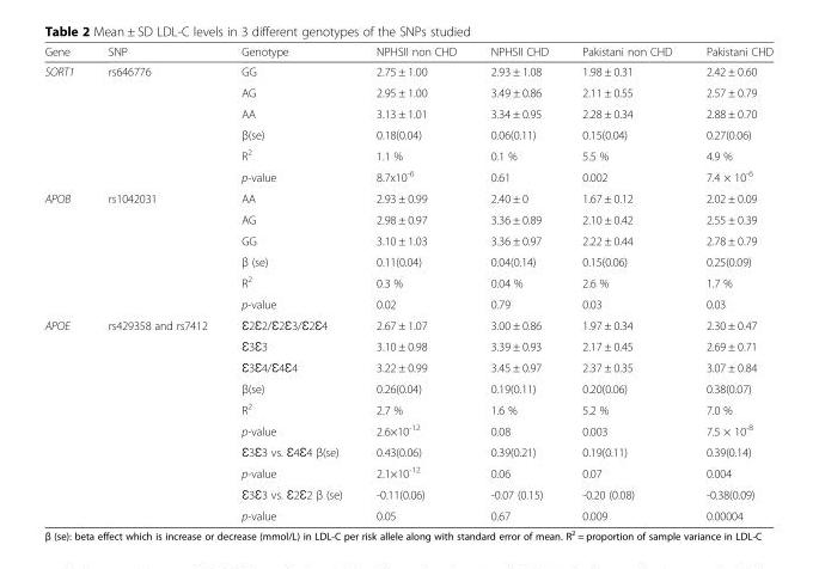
<table><thead><tr><td>Gene</td><td>SNP</td><td>Genotype</td><td>NPHSII non CHD</td><td>NPHSII CHD</td><td>Pakistani non CHD</td><td>Pakistani CHD</td></tr></thead><tbody><tr><td rowspan="6">SORT1</td><td rowspan="6">rs646776</td><td>GG</td><td>2.75 ± 1.00</td><td>2.93 ± 1.08</td><td>1.98 ± 0.31</td><td>2.42 ± 0.60</td></tr><tr><td>AG</td><td>2.95 ± 1.00</td><td>3.49 ± 0.86</td><td>2.11 ± 0.55</td><td>2.57 ± 0.79</td></tr><tr><td>AA</td><td>3.13 ± 1.01</td><td>3.34 ± 0.95</td><td>2.28 ± 0.34</td><td>2.88 ± 0.70</td></tr><tr><td>β(se)</td><td>0.18(0.04)</td><td>0.06(0.11)</td><td>0.15(0.04)</td><td>0.27(0.06)</td></tr><tr><td>R<sup>2</sup></td><td>1.1 %</td><td>0.1 %</td><td>5.5 %</td><td>4.9 %</td></tr><tr><td>p-value</td><td>8.7x10<sup>-6</sup></td><td>0.61</td><td>0.002</td><td>7.4 × 10<sup>-6</sup></td></tr><tr><td rowspan="6">APOB</td><td rowspan="6">rs1042031</td><td>AA</td><td>2.93 ± 0.99</td><td>2.40 ± 0</td><td>1.67 ± 0.12</td><td>2.02 ± 0.09</td></tr><tr><td>AG</td><td>2.98 ± 0.97</td><td>3.36 ± 0.89</td><td>2.10 ± 0.42</td><td>2.55 ± 0.39</td></tr><tr><td>GG</td><td>3.10 ± 1.03</td><td>3.36 ± 0.97</td><td>2.22 ± 0.44</td><td>2.78 ± 0.79</td></tr><tr><td>β (se)</td><td>0.11(0.04)</td><td>0.04(0.14)</td><td>0.15(0.06)</td><td>0.25(0.09)</td></tr><tr><td>R<sup>2</sup></td><td>0.3 %</td><td>0.04 %</td><td>2.6 %</td><td>1.7 %</td></tr><tr><td>p-value</td><td>0.02</td><td>0.79</td><td>0.03</td><td>0.03</td></tr><tr><td rowspan="10">APOE</td><td rowspan="10">rs429358 and rs7412</td><td>Ɛ2Ɛ2/Ɛ2Ɛ3/Ɛ2Ɛ4</td><td>2.67 ± 1.07</td><td>3.00 ± 0.86</td><td>1.97 ± 0.34</td><td>2.30 ± 0.47</td></tr><tr><td>Ɛ3Ɛ3</td><td>3.10 ± 0.98</td><td>3.39 ± 0.93</td><td>2.17 ± 0.45</td><td>2.69 ± 0.71</td></tr><tr><td>Ɛ3Ɛ4/Ɛ4Ɛ4</td><td>3.22 ± 0.99</td><td>3.45 ± 0.97</td><td>2.37 ± 0.35</td><td>3.07 ± 0.84</td></tr><tr><td>β(se)</td><td>0.26(0.04)</td><td>0.19(0.11)</td><td>0.20(0.06)</td><td>0.38(0.07)</td></tr><tr><td>R<sup>2</sup></td><td>2.7 %</td><td>1.6 %</td><td>5.2 %</td><td>7.0 %</td></tr><tr><td>p-value</td><td>2.6×10<sup>-12</sup></td><td>0.08</td><td>0.003</td><td>7.5 × 10<sup>-8</sup></td></tr><tr><td>Ɛ3Ɛ3 vs. Ɛ4Ɛ4 β(se)</td><td>0.43(0.06)</td><td>0.39(0.21)</td><td>0.19(0.11)</td><td>0.39(0.14)</td></tr><tr><td>p-value</td><td>2.1×10<sup>-12</sup></td><td>0.06</td><td>0.07</td><td>0.004</td></tr><tr><td>Ɛ3Ɛ3 vs. Ɛ2Ɛ2 β (se)</td><td>-0.11(0.06)</td><td>-0.07 (0.15)</td><td>-0.20 (0.08)</td><td>-0.38(0.09)</td></tr><tr><td>p-value</td><td>0.05</td><td>0.67</td><td>0.009</td><td>0.00004</td></tr></tbody></table>